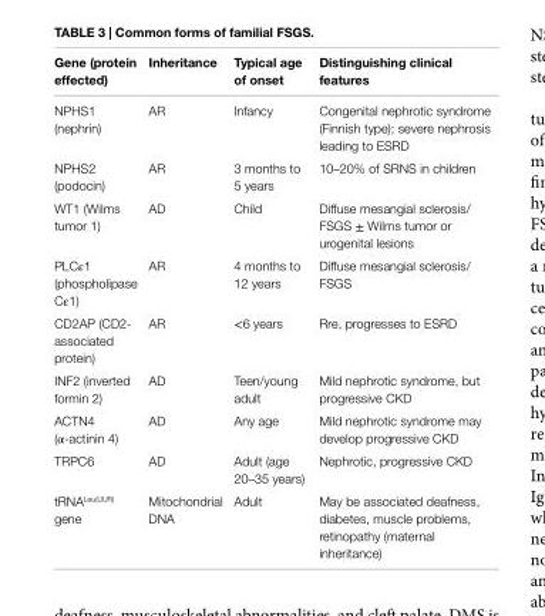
<table><thead><tr><td>Gene (protein effected)</td><td>inheritance</td><td>Typical age of onset</td><td>Distinguishing clinical features</td></tr></thead><tbody><tr><td>NPHS1 (nephrin)</td><td>AR</td><td>Infancy</td><td>Congenital nephrotic syndrome (Finnish type); severe nephrosis leading to ESRD</td></tr><tr><td>NPHS2 (podocin)</td><td>AR</td><td>3 months to 5 years</td><td>10–20% of SRNS in children</td></tr><tr><td>WT1 (Wilms tumor 1)</td><td>AD</td><td>Child</td><td>Diffuse mesangial sclerosis/ FSGS ± Wilms tumor or urogenital lesions</td></tr><tr><td>PLCε1 (phospholipase Cε1)</td><td>AR</td><td>4 months to 12 years</td><td>Diffuse mesangial sclerosis/ FSGS</td></tr><tr><td>CD2AP (CD2- associated protein)</td><td>AR</td><td>&lt;6 years</td><td>Rre, progresses to ESRD</td></tr><tr><td>INF2 (inverted formin 2)</td><td>AD</td><td>Teen/young adult</td><td>Mild nephrotic syndrome, but progressive CKD</td></tr><tr><td>ACTN4 (α-actinin 4)</td><td>AD</td><td>Any age</td><td>Mild nephrotic syndrome may develop progressive CKD</td></tr><tr><td>TRPC6</td><td>AD</td><td>Adult (age 20–35 years)</td><td>Nephrotic, progressive CKD</td></tr><tr><td>tRNA<sup>Leu(UUR)</sup> gene</td><td>Mitochondrial DNA</td><td>Adult</td><td>May be associated deafness, diabetes, muscle problems, retinopathy (maternal inheritance)</td></tr></tbody></table>